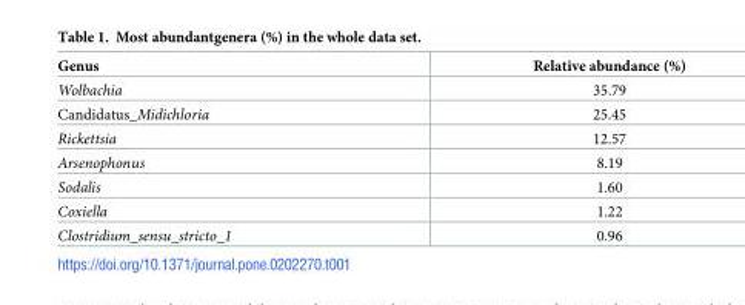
<table><thead><tr><td>Genus</td><td>Relative abundance (%)</td></tr></thead><tbody><tr><td>Wolbachia</td><td>35.79</td></tr><tr><td>Candidatus_Midichloria</td><td>25.45</td></tr><tr><td>Rickettsia</td><td>12.57</td></tr><tr><td>Arsenophonus</td><td>8.19</td></tr><tr><td>Sodalis</td><td>1.60</td></tr><tr><td>Coxiella</td><td>1.22</td></tr><tr><td>Clostridium_sensu_stricto_1</td><td>0.96</td></tr></tbody></table>